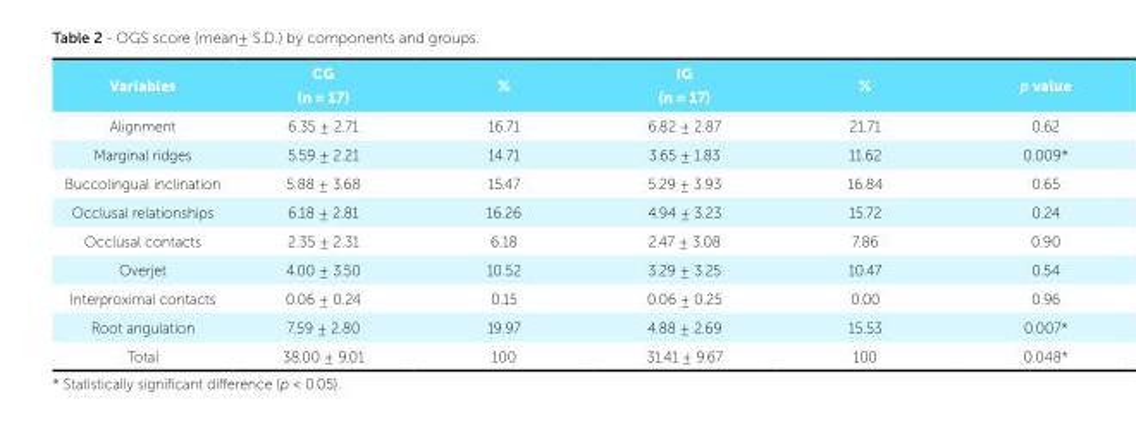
<table><thead><tr><td>Variables</td><td>CG (n = 17)</td><td>%</td><td>IG (n = 17)</td><td>%</td><td>p value</td></tr></thead><tbody><tr><td>Alignment</td><td>6.35 ± 2.71</td><td>16.71</td><td>6.82 ± 2.87</td><td>21.71</td><td>0.62</td></tr><tr><td>Marginal ridges</td><td>5.59 ± 2.21</td><td>14.71</td><td>3.65 ± 1.83</td><td>11.62</td><td>0.009*</td></tr><tr><td>Buccolingual inclination</td><td>5.88 ± 3.68</td><td>15.47</td><td>5.29 ± 3.93</td><td>16.84</td><td>0.65</td></tr><tr><td>Occlusal relationships</td><td>6.18 ± 2.81</td><td>16.26</td><td>4.94 ± 3.23</td><td>15.72</td><td>0.24</td></tr><tr><td>Occlusal contacts</td><td>2.35 ± 2.31</td><td>6.18</td><td>2.47 ± 3.08</td><td>7.86</td><td>0.90</td></tr><tr><td>Overjet</td><td>4.00 ± 3.50</td><td>10.52</td><td>3.29 ± 3.25</td><td>10.47</td><td>0.54</td></tr><tr><td>Interproximal contacts</td><td>0.06 ± 0.24</td><td>0.15</td><td>0.06 ± 0.25</td><td>0.00</td><td>0.96</td></tr><tr><td>Root angulation</td><td>7.59 ± 2.80</td><td>19.97</td><td>4.88 ± 2.69</td><td>15.53</td><td>0.007*</td></tr><tr><td>Total</td><td>38.00 ± 9.01</td><td>100</td><td>31.41 ± 9.67</td><td>100</td><td>0.048*</td></tr></tbody></table>